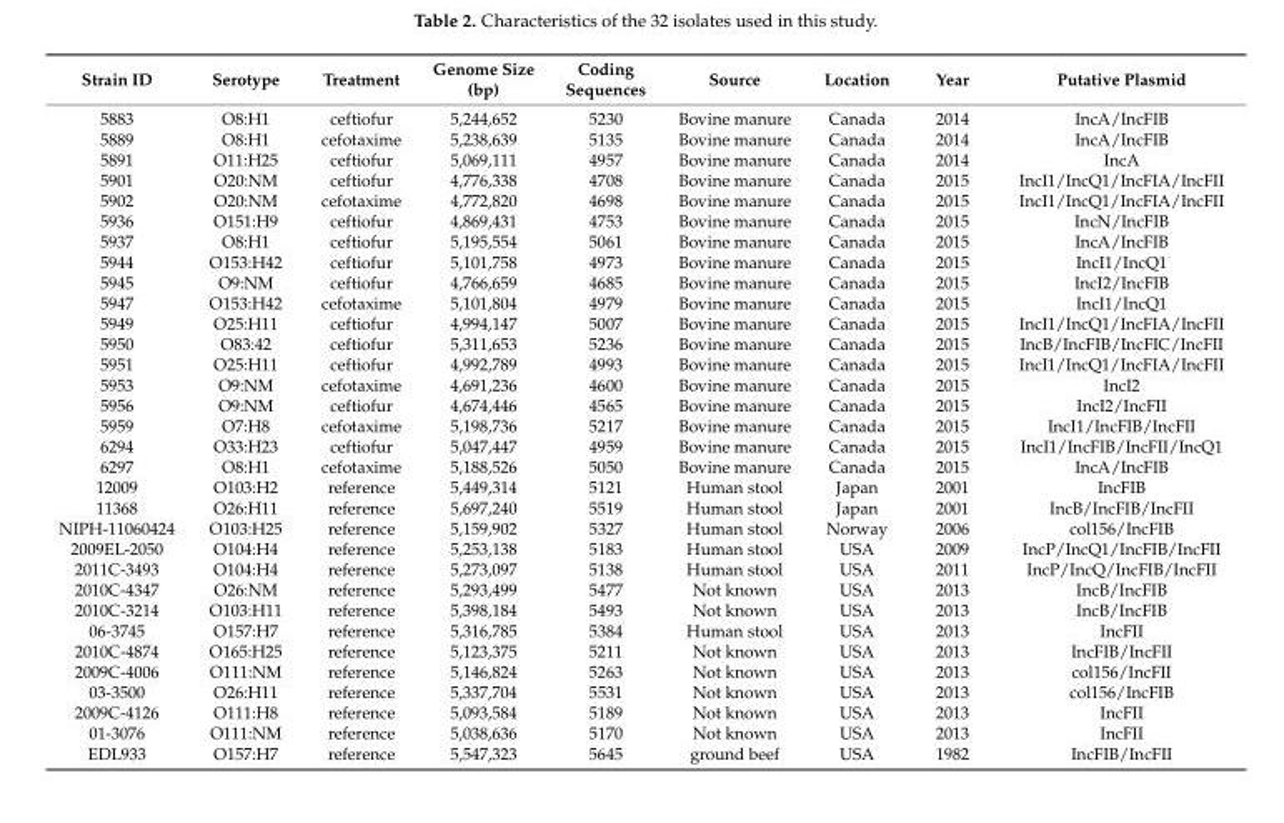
<table><thead><tr><td>Strain ID</td><td>Serotype</td><td>Treatment</td><td>Genome Size (bp)</td><td>Coding Sequences</td><td>Source</td><td>Location</td><td>Year</td><td>Putative Plasmid</td></tr></thead><tbody><tr><td>5883</td><td>O8:H1</td><td>ceftiofur</td><td>5,244,652</td><td>5230</td><td>Bovine manure</td><td>Canada</td><td>2014</td><td>IncA/IncFIB</td></tr><tr><td>5889</td><td>O8:H1</td><td>cefotaxime</td><td>5,238,639</td><td>5135</td><td>Bovine manure</td><td>Canada</td><td>2014</td><td>IncA/IncFIB</td></tr><tr><td>5891</td><td>O11:H25</td><td>ceftiofur</td><td>5,069,111</td><td>4957</td><td>Bovine manure</td><td>Canada</td><td>2014</td><td>IncA</td></tr><tr><td>5901</td><td>O20:NM</td><td>ceftiofur</td><td>4,776,338</td><td>4708</td><td>Bovine manure</td><td>Canada</td><td>2015</td><td>IncI1/IncQ1/IncFIA/IncFII</td></tr><tr><td>5902</td><td>O20:NM</td><td>cefotaxime</td><td>4,772,820</td><td>4698</td><td>Bovine manure</td><td>Canada</td><td>2015</td><td>IncI1/IncQ1/IncFIA/IncFII</td></tr><tr><td>5936</td><td>O151:H9</td><td>ceftiofur</td><td>4,869,431</td><td>4753</td><td>Bovine manure</td><td>Canada</td><td>2015</td><td>IncN/IncFIB</td></tr><tr><td>5937</td><td>O8:H1</td><td>ceftiofur</td><td>5,195,554</td><td>5061</td><td>Bovine manure</td><td>Canada</td><td>2015</td><td>IncA/IncFIB</td></tr><tr><td>5944</td><td>O153:H42</td><td>ceftiofur</td><td>5,101,758</td><td>4973</td><td>Bovine manure</td><td>Canada</td><td>2015</td><td>IncI1/IncQ1</td></tr><tr><td>5945</td><td>O9:NM</td><td>ceftiofur</td><td>4,766,659</td><td>4685</td><td>Bovine manure</td><td>Canada</td><td>2015</td><td>IncI2/IncFIB</td></tr><tr><td>5947</td><td>O153:H42</td><td>cefotaxime</td><td>5,101,804</td><td>4979</td><td>Bovine manure</td><td>Canada</td><td>2015</td><td>IncI1/IncQ1</td></tr><tr><td>5949</td><td>O25:H11</td><td>ceftiofur</td><td>4,994,147</td><td>5007</td><td>Bovine manure</td><td>Canada</td><td>2015</td><td>IncI1/IncQ1/IncFIA/IncFII</td></tr><tr><td>5950</td><td>O83:42</td><td>ceftiofur</td><td>5,311,653</td><td>5236</td><td>Bovine manure</td><td>Canada</td><td>2015</td><td>IncB/IncFIB/IncFIC/IncFII</td></tr><tr><td>5951</td><td>O25:H11</td><td>ceftiofur</td><td>4,992,789</td><td>4993</td><td>Bovine manure</td><td>Canada</td><td>2015</td><td>IncI1/IncQ1/IncFIA/IncFII</td></tr><tr><td>5953</td><td>O9:NM</td><td>cefotaxime</td><td>4,691,236</td><td>4600</td><td>Bovine manure</td><td>Canada</td><td>2015</td><td>IncI2</td></tr><tr><td>5956</td><td>O9:NM</td><td>ceftiofur</td><td>4,674,446</td><td>4565</td><td>Bovine manure</td><td>Canada</td><td>2015</td><td>IncI2/IncFII</td></tr><tr><td>5959</td><td>O7:H8</td><td>cefotaxime</td><td>5,198,736</td><td>5217</td><td>Bovine manure</td><td>Canada</td><td>2015</td><td>IncI1/IncFIB/IncFII</td></tr><tr><td>6294</td><td>O33:H23</td><td>ceftiofur</td><td>5,047,447</td><td>4959</td><td>Bovine manure</td><td>Canada</td><td>2015</td><td>IncI1/IncFIB/IncFII/IncQ1</td></tr><tr><td>6297</td><td>O8:H1</td><td>cefotaxime</td><td>5,188,526</td><td>5050</td><td>Bovine manure</td><td>Canada</td><td>2015</td><td>IncA/IncFIB</td></tr><tr><td>12009</td><td>O103:H2</td><td>reference</td><td>5,449,314</td><td>5121</td><td>Human stool</td><td>Japan</td><td>2001</td><td>IncFIB</td></tr><tr><td>11368</td><td>O26:H11</td><td>reference</td><td>5,697,240</td><td>5519</td><td>Human stool</td><td>Japan</td><td>2001</td><td>IncB/IncFIB/IncFII</td></tr><tr><td>NIPH-11060424</td><td>O103:H25</td><td>reference</td><td>5,159,902</td><td>5327</td><td>Human stool</td><td>Norway</td><td>2006</td><td>col156/IncFIB</td></tr><tr><td>2009EL-2050</td><td>O104:H4</td><td>reference</td><td>5,253,138</td><td>5183</td><td>Human stool</td><td>USA</td><td>2009</td><td>IncP/IncQ1/IncFIB/IncFII</td></tr><tr><td>2011C-3493</td><td>O104:H4</td><td>reference</td><td>5,273,097</td><td>5138</td><td>Human stool</td><td>USA</td><td>2011</td><td>IncP/IncQ/IncFIB/IncFII</td></tr><tr><td>2010C-4347</td><td>O26:NM</td><td>reference</td><td>5,293,499</td><td>5477</td><td>Not known</td><td>USA</td><td>2013</td><td>IncB/IncFIB</td></tr><tr><td>2010C-3214</td><td>O103:H11</td><td>reference</td><td>5,398,184</td><td>5493</td><td>Not known</td><td>USA</td><td>2013</td><td>IncB/IncFIB</td></tr><tr><td>06-3745</td><td>O157:H7</td><td>reference</td><td>5,316,785</td><td>5384</td><td>Human stool</td><td>USA</td><td>2013</td><td>IncFII</td></tr><tr><td>2010C-4874</td><td>O165:H25</td><td>reference</td><td>5,123,375</td><td>5211</td><td>Not known</td><td>USA</td><td>2013</td><td>IncFIB/IncFII</td></tr><tr><td>2009C-4006</td><td>O111:NM</td><td>reference</td><td>5,146,824</td><td>5263</td><td>Not known</td><td>USA</td><td>2013</td><td>col156/IncFII</td></tr><tr><td>03-3500</td><td>O26:H11</td><td>reference</td><td>5,337,704</td><td>5531</td><td>Not known</td><td>USA</td><td>2013</td><td>col156/IncFIB</td></tr><tr><td>2009C-4126</td><td>O111:H8</td><td>reference</td><td>5,093,584</td><td>5189</td><td>Not known</td><td>USA</td><td>2013</td><td>IncFII</td></tr><tr><td>01-3076</td><td>O111:NM</td><td>reference</td><td>5,038,636</td><td>5170</td><td>Not known</td><td>USA</td><td>2013</td><td>IncFII</td></tr><tr><td>EDL933</td><td>O157:H7</td><td>reference</td><td>5,547,323</td><td>5645</td><td>ground beef</td><td>USA</td><td>1982</td><td>IncFIB/IncFII</td></tr></tbody></table>